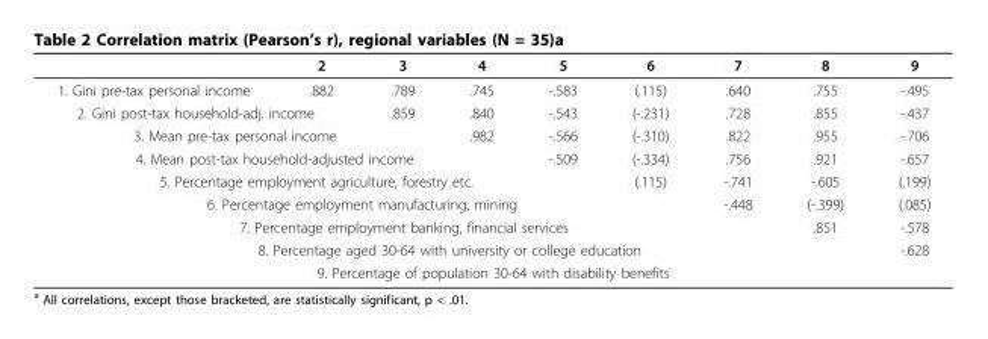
<table><thead><tr><td></td><td>2</td><td>3</td><td>4</td><td>5</td><td>6</td><td>7</td><td>8</td><td>9</td></tr></thead><tbody><tr><td>1. Gini pre-tax personal income</td><td>.882</td><td>.789</td><td>.745</td><td>-.583</td><td>(.115)</td><td>.640</td><td>.755</td><td>-.495</td></tr><tr><td colspan="2">2. Gini post-tax household-adj. income</td><td>.859</td><td>.840</td><td>-.543</td><td>(-.231)</td><td>.728</td><td>.855</td><td>-.437</td></tr><tr><td colspan="3">3. Mean pre-tax personal income</td><td>.982</td><td>-.566</td><td>(-.310)</td><td>.822</td><td>.955</td><td>-.706</td></tr><tr><td colspan="4">4. Mean post-tax household-adjusted income</td><td>-.509</td><td>(-.334)</td><td>.756</td><td>.921</td><td>-.657</td></tr><tr><td colspan="5">5. Percentage employment agriculture, forestry etc.</td><td>(.115)</td><td>-.741</td><td>-.605</td><td>(.199)</td></tr><tr><td colspan="6">6. Percentage employment manufacturing, mining</td><td>-.448</td><td>(-.399)</td><td>(.085)</td></tr><tr><td colspan="7">7. Percentage employment banking, financial services</td><td>.851</td><td>-.578</td></tr><tr><td colspan="8">8. Percentage aged 30-64 with university or college education</td><td>-.628</td></tr><tr><td colspan="9">9. Percentage of population 30-64 with disability benefits</td></tr></tbody></table>